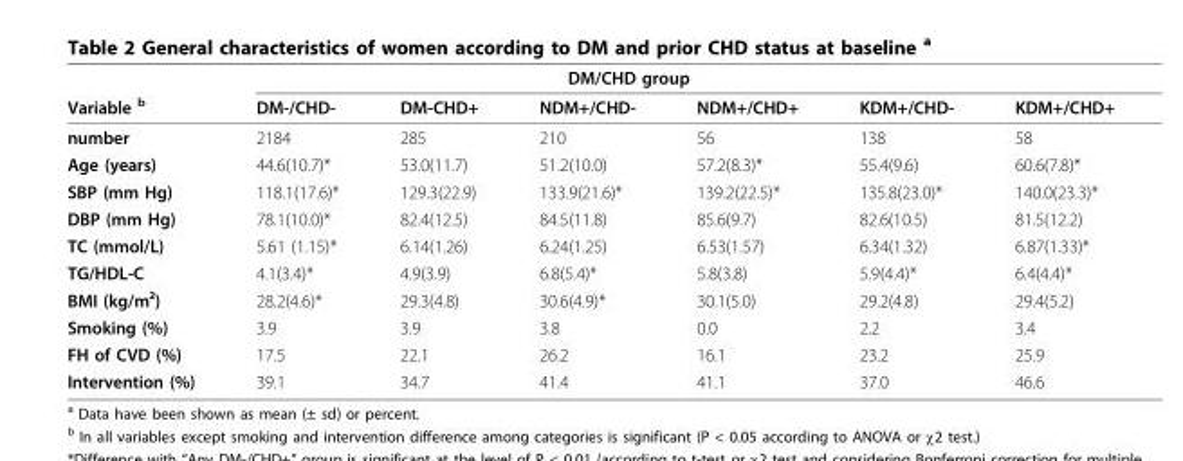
<table><thead><tr><td rowspan="2">Variable <sup>b</sup></td><td colspan="5">DM/CHD group</td><td rowspan="2">KDM+/CHD+</td></tr><tr><td>DM-/CHD-</td><td>DM-CHD+</td><td>NDM+/CHD-</td><td>NDM+/CHD+</td><td>KDM+/CHD-</td></tr></thead><tbody><tr><td>number</td><td>2184</td><td>285</td><td>210</td><td>56</td><td>138</td><td>58</td></tr><tr><td>Age (years)</td><td>44.6(10.7)*</td><td>53.0(11.7)</td><td>51.2(10.0)</td><td>57.2(8.3)*</td><td>55.4(9.6)</td><td>60.6(7.8)*</td></tr><tr><td>SBP (mm Hg)</td><td>118.1(17.6)*</td><td>129.3(22.9)</td><td>133.9(21.6)*</td><td>139.2(22.5)*</td><td>135.8(23.0)*</td><td>140.0(23.3)*</td></tr><tr><td>DBP (mm Hg)</td><td>78.1(10.0)*</td><td>82.4(12.5)</td><td>84.5(11.8)</td><td>85.6(9.7)</td><td>82.6(10.5)</td><td>81.5(12.2)</td></tr><tr><td>TC (mmol/L)</td><td>5.61 (1.15)*</td><td>6.14(1.26)</td><td>6.24(1.25)</td><td>6.53(1.57)</td><td>6.34(1.32)</td><td>6.87(1.33)*</td></tr><tr><td>TG/HDL-C</td><td>4.1(3.4)*</td><td>4.9(3.9)</td><td>6.8(5.4)*</td><td>5.8(3.8)</td><td>5.9(4.4)*</td><td>6.4(4.4)*</td></tr><tr><td>BMI (kg/m²)</td><td>28.2(4.6)*</td><td>29.3(4.8)</td><td>30.6(4.9)*</td><td>30.1(5.0)</td><td>29.2(4.8)</td><td>29.4(5.2)</td></tr><tr><td>Smoking (%)</td><td>3.9</td><td>3.9</td><td>3.8</td><td>0.0</td><td>2.2</td><td>3.4</td></tr><tr><td>FH of CVD (%)</td><td>17.5</td><td>22.1</td><td>26.2</td><td>16.1</td><td>23.2</td><td>25.9</td></tr><tr><td>Intervention (%)</td><td>39.1</td><td>34.7</td><td>41.4</td><td>41.1</td><td>37.0</td><td>46.6</td></tr></tbody></table>